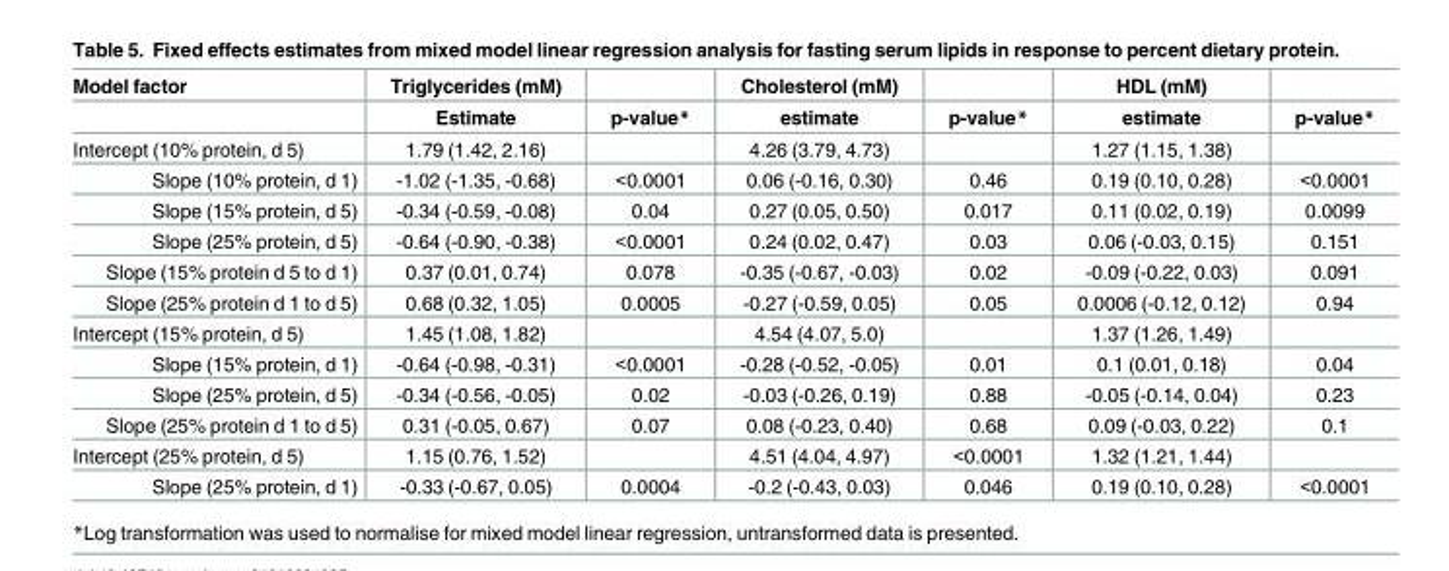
<table><thead><tr><td rowspan="2">Model factor</td><td rowspan="2">Triglycerides (mM) Estimate</td><td rowspan="2">p-value*</td><td rowspan="2">Cholesterol (mM) estimate</td><td rowspan="2">p-value*</td><td rowspan="2">HDL (mM) estimate</td><td rowspan="2">p-value*</td></tr><tr></tr></thead><tbody><tr><td>Intercept (10% protein, d 5)</td><td>1.79 (1.42, 2.16)</td><td></td><td>4.26 (3.79, 4.73)</td><td></td><td>1.27 (1.15, 1.38)</td><td></td></tr><tr><td>Slope (10% protein, d 1)</td><td>-1.02 (-1.35, -0.68)</td><td>&lt;0.0001</td><td>0.06 (-0.16, 0.30)</td><td>0.46</td><td>0.19 (0.10, 0.28)</td><td>&lt;0.0001</td></tr><tr><td>Slope (15% protein, d 5)</td><td>-0.34 (-0.59, -0.08)</td><td>0.04</td><td>0.27 (0.05, 0.50)</td><td>0.017</td><td>0.11 (0.02, 0.19)</td><td>0.0099</td></tr><tr><td>Slope (25% protein, d 5)</td><td>-0.64 (-0.90, -0.38)</td><td>&lt;0.0001</td><td>0.24 (0.02, 0.47)</td><td>0.03</td><td>0.06 (-0.03, 0.15)</td><td>0.151</td></tr><tr><td>Slope (15% protein d 5 to d 1)</td><td>0.37 (0.01, 0.74)</td><td>0.078</td><td>-0.35 (-0.67, -0.03)</td><td>0.02</td><td>-0.09 (-0.22, 0.03)</td><td>0.091</td></tr><tr><td>Slope (25% protein d 1 to d 5)</td><td>0.68 (0.32, 1.05)</td><td>0.0005</td><td>-0.27 (-0.59, 0.05)</td><td>0.05</td><td>0.0006 (-0.12, 0.12)</td><td>0.94</td></tr><tr><td>Intercept (15% protein, d 5)</td><td>1.45 (1.08, 1.82)</td><td></td><td>4.54 (4.07, 5.0)</td><td></td><td>1.37 (1.26, 1.49)</td><td></td></tr><tr><td>Slope (15% protein, d 1)</td><td>-0.64 (-0.98, -0.31)</td><td>&lt;0.0001</td><td>-0.28 (-0.52, -0.05)</td><td>0.01</td><td>0.1 (0.01, 0.18)</td><td>0.04</td></tr><tr><td>Slope (25% protein, d 5)</td><td>-0.34 (-0.56, -0.05)</td><td>0.02</td><td>-0.03 (-0.26, 0.19)</td><td>0.88</td><td>-0.05 (-0.14, 0.04)</td><td>0.23</td></tr><tr><td>Slope (25% protein d 1 to d 5)</td><td>0.31 (-0.05, 0.67)</td><td>0.07</td><td>0.08 (-0.23, 0.40)</td><td>0.68</td><td>0.09 (-0.03, 0.22)</td><td>0.1</td></tr><tr><td>Intercept (25% protein, d 5)</td><td>1.15 (0.76, 1.52)</td><td></td><td>4.51 (4.04, 4.97)</td><td>&lt;0.0001</td><td>1.32 (1.21, 1.44)</td><td></td></tr><tr><td>Slope (25% protein, d 1)</td><td>-0.33 (-0.67, 0.05)</td><td>0.0004</td><td>-0.2 (-0.43, 0.03)</td><td>0.046</td><td>0.19 (0.10, 0.28)</td><td>&lt;0.0001</td></tr></tbody></table>